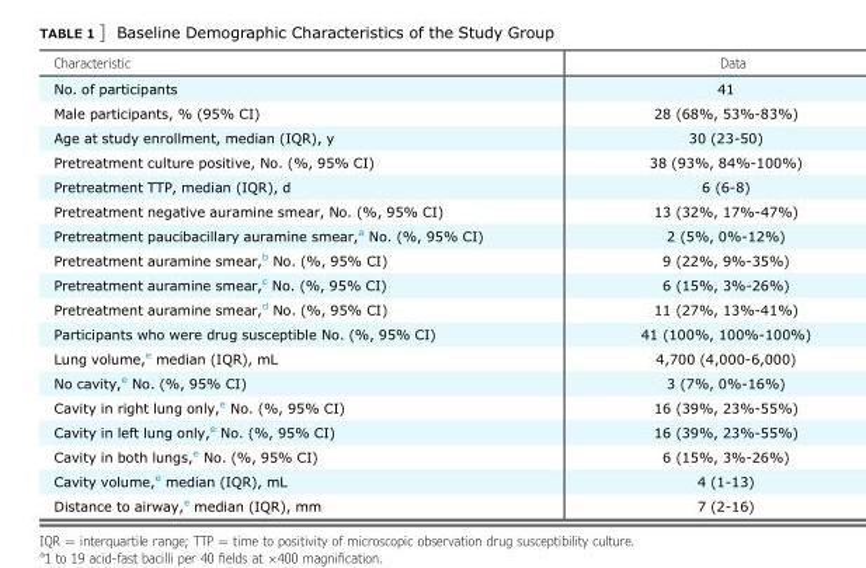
<table><thead><tr><td>Characteristic</td><td>Data</td></tr></thead><tbody><tr><td>No. of participants</td><td>41</td></tr><tr><td>Male participants, % (95% CI)</td><td>28 (68%, 53%-83%)</td></tr><tr><td>Age at study enrollment, median (IQR), y</td><td>30 (23-50)</td></tr><tr><td>Pretreatment culture positive, No. (%, 95% CI)</td><td>38 (93%, 84%-100%)</td></tr><tr><td>Pretreatment TTP, median (IQR), d</td><td>6 (6-8)</td></tr><tr><td>Pretreatment negative auramine smear, No. (%, 95% CI)</td><td>13 (32%, 17%-47%)</td></tr><tr><td>Pretreatment paucibacillary auramine smear,<sup>a</sup> No. (%, 95% CI)</td><td>2 (5%, 0%-12%)</td></tr><tr><td>Pretreatment auramine smear,<sup>b</sup> No. (%, 95% CI)</td><td>9 (22%, 9%-35%)</td></tr><tr><td>Pretreatment auramine smear,<sup>c</sup> No. (%, 95% CI)</td><td>6 (15%, 3%-26%)</td></tr><tr><td>Pretreatment auramine smear,<sup>d</sup> No. (%, 95% CI)</td><td>11 (27%, 13%-41%)</td></tr><tr><td>Participants who were drug susceptible No. (%, 95% CI)</td><td>41 (100%, 100%-100%)</td></tr><tr><td>Lung volume,<sup>e</sup> median (IQR), mL</td><td>4,700 (4,000-6,000)</td></tr><tr><td>No cavity,<sup>e</sup> No. (%, 95% CI)</td><td>3 (7%, 0%-16%)</td></tr><tr><td>Cavity in right lung only,<sup>e</sup> No. (%, 95% CI)</td><td>16 (39%, 23%-55%)</td></tr><tr><td>Cavity in left lung only,<sup>e</sup> No. (%, 95% CI)</td><td>16 (39%, 23%-55%)</td></tr><tr><td>Cavity in both lungs,<sup>e</sup> No. (%, 95% CI)</td><td>6 (15%, 3%-26%)</td></tr><tr><td>Cavity volume,<sup>e</sup> median (IQR), mL</td><td>4 (1-13)</td></tr><tr><td>Distance to airway,<sup>e</sup> median (IQR), mm</td><td>7 (2-16)</td></tr></tbody></table>